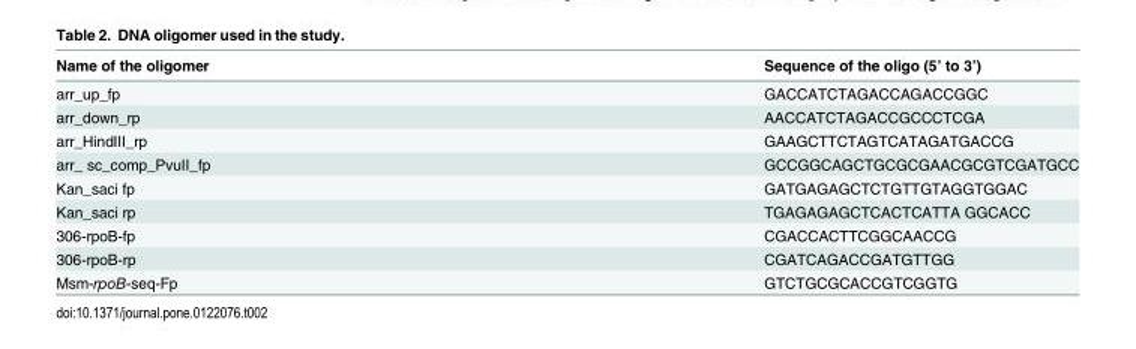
<table><thead><tr><td>Name of the oligomer</td><td>Sequence of the oligo (5’ to 3’)</td></tr></thead><tbody><tr><td>arr_up_fp</td><td>GACCATCTAGACCAGACCGGC</td></tr><tr><td>arr_down_rp</td><td>AACCATCTAGACCGCCCTCGA</td></tr><tr><td>arr_HindIII_rp</td><td>GAAGCTTCTAGTCATAGATGACCG</td></tr><tr><td>arr_ sc_comp_PvuII_fp</td><td>GCCGGCAGCTGCGCGAACGCGTCGATGCC</td></tr><tr><td>Kan_saci fp</td><td>GATGAGAGCTCTGTTGTAGGTGGAC</td></tr><tr><td>Kan_saci rp</td><td>TGAGAGAGCTCACTCATTA GGCACC</td></tr><tr><td>306-rpoB-fp</td><td>CGACCACTTCGGCAACCG</td></tr><tr><td>306-rpoB-rp</td><td>CGATCAGACCGATGTTGG</td></tr><tr><td>Msm-rpoB-seq-Fp</td><td>GTCTGCGCACCGTCGGTG</td></tr></tbody></table>